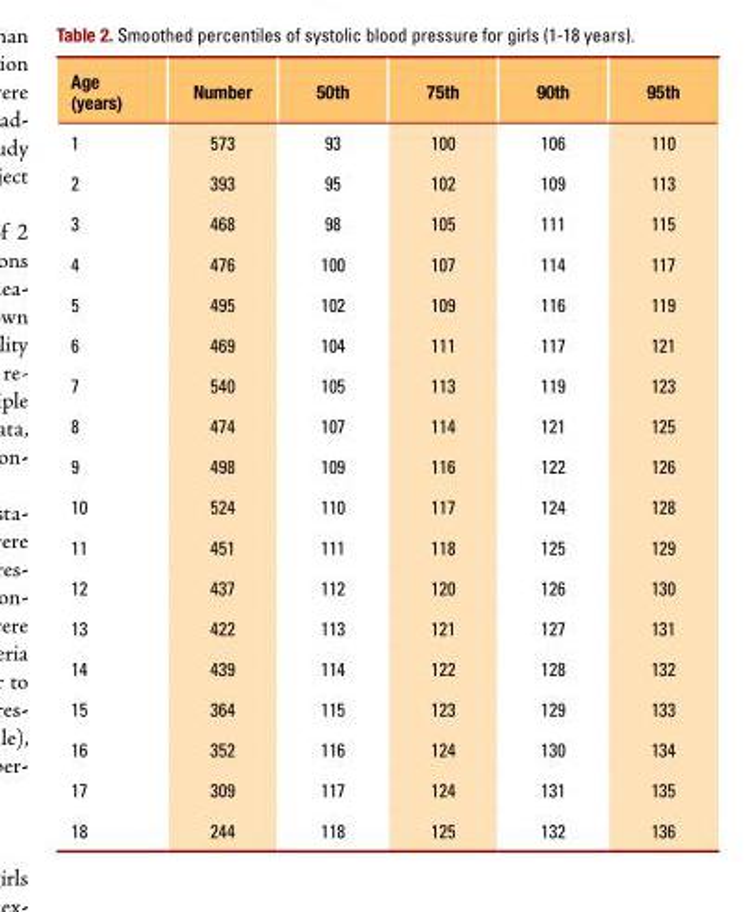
<table><thead><tr><td>Age (years)</td><td>Number</td><td>50th</td><td>75th</td><td>90th</td><td>95th</td></tr></thead><tbody><tr><td>1</td><td>573</td><td>93</td><td>100</td><td>106</td><td>110</td></tr><tr><td>2</td><td>393</td><td>95</td><td>102</td><td>109</td><td>113</td></tr><tr><td>3</td><td>468</td><td>98</td><td>105</td><td>111</td><td>115</td></tr><tr><td>4</td><td>476</td><td>100</td><td>107</td><td>114</td><td>117</td></tr><tr><td>5</td><td>495</td><td>102</td><td>109</td><td>116</td><td>119</td></tr><tr><td>6</td><td>469</td><td>104</td><td>111</td><td>117</td><td>121</td></tr><tr><td>7</td><td>540</td><td>105</td><td>113</td><td>119</td><td>123</td></tr><tr><td>8</td><td>474</td><td>107</td><td>114</td><td>121</td><td>125</td></tr><tr><td>9</td><td>498</td><td>109</td><td>116</td><td>122</td><td>126</td></tr><tr><td>10</td><td>524</td><td>110</td><td>117</td><td>124</td><td>128</td></tr><tr><td>11</td><td>451</td><td>111</td><td>118</td><td>125</td><td>129</td></tr><tr><td>12</td><td>437</td><td>112</td><td>120</td><td>126</td><td>130</td></tr><tr><td>13</td><td>422</td><td>113</td><td>121</td><td>127</td><td>131</td></tr><tr><td>14</td><td>439</td><td>114</td><td>122</td><td>128</td><td>132</td></tr><tr><td>15</td><td>364</td><td>115</td><td>123</td><td>129</td><td>133</td></tr><tr><td>16</td><td>352</td><td>116</td><td>124</td><td>130</td><td>134</td></tr><tr><td>17</td><td>309</td><td>117</td><td>124</td><td>131</td><td>135</td></tr><tr><td>18</td><td>244</td><td>118</td><td>125</td><td>132</td><td>136</td></tr></tbody></table>